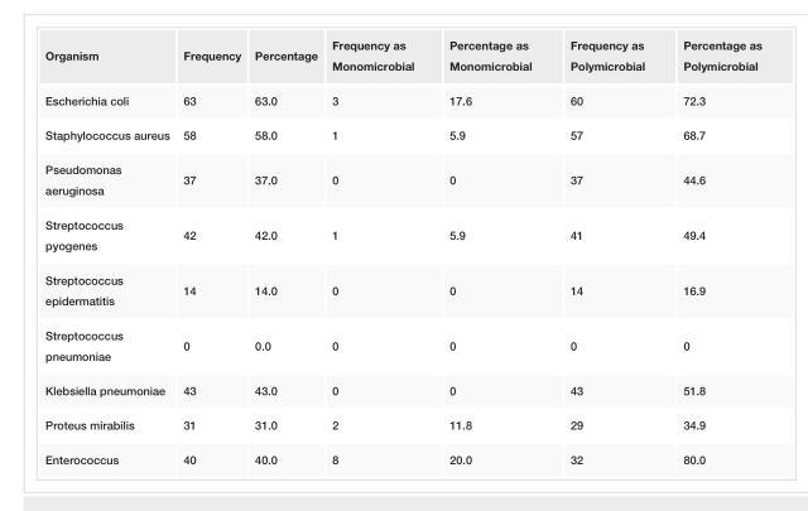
<table><tbody><tr><td>Organism</td><td>Frequency</td><td>Percentage</td><td>Frequency as Monomicrobial</td><td>Percentage as Monomicrobial</td><td>Frequency as Polymicrobial</td><td>Percentage as Polymicrobial</td></tr><tr><td>Escherichia coli</td><td>63</td><td>63.0</td><td>3</td><td>17.6</td><td>60</td><td>72.3</td></tr><tr><td>Staphylococcus aureus</td><td>58</td><td>58.0</td><td>1</td><td>5.9</td><td>57</td><td>68.7</td></tr><tr><td>Pseudomonas aeruginosa</td><td>37</td><td>37.0</td><td>0</td><td>0</td><td>37</td><td>44.6</td></tr><tr><td>Streptococcus pyogenes</td><td>42</td><td>42.0</td><td>1</td><td>5.9</td><td>41</td><td>49.4</td></tr><tr><td>Streptococcus epidermatitis</td><td>14</td><td>14.0</td><td>0</td><td>0</td><td>14</td><td>16.9</td></tr><tr><td>Streptococcus pneumoniae</td><td>0</td><td>0.0</td><td>0</td><td>0</td><td>0</td><td>0</td></tr><tr><td>Klebsiella pneumoniae</td><td>43</td><td>43.0</td><td>0</td><td>0</td><td>43</td><td>51.8</td></tr><tr><td>Proteus mirabilis</td><td>31</td><td>31.0</td><td>2</td><td>11.8</td><td>29</td><td>34.9</td></tr><tr><td>Enterococcus</td><td>40</td><td>40.0</td><td>8</td><td>20.0</td><td>32</td><td>80.0</td></tr></tbody></table>